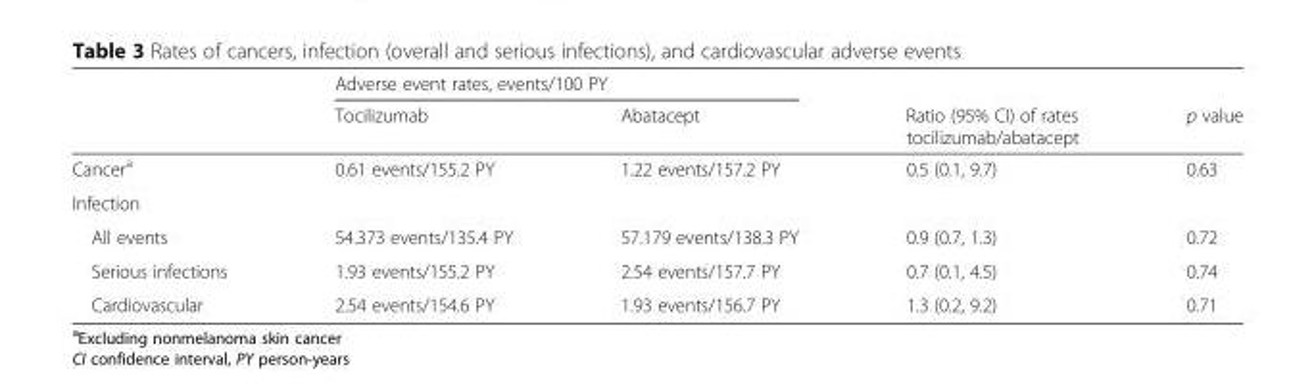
<table><thead><tr><td rowspan="2"></td><td colspan="2">Adverse event rates, events/100 PY</td><td rowspan="2">Ratio (95% CI) of rates tocilizumab/abatacept</td><td rowspan="2">p value</td></tr><tr><td>Tocilizumab</td><td>Abatacept</td></tr></thead><tbody><tr><td>Cancer<sup>a</sup></td><td>0.61 events/155.2 PY</td><td>1.22 events/157.2 PY</td><td>0.5 (0.1, 9.7)</td><td>0.63</td></tr><tr><td colspan="5">Infection</td></tr><tr><td>All events</td><td>54.373 events/135.4 PY</td><td>57.179 events/138.3 PY</td><td>0.9 (0.7, 1.3)</td><td>0.72</td></tr><tr><td>Serious infections</td><td>1.93 events/155.2 PY</td><td>2.54 events/157.7 PY</td><td>0.7 (0.1, 4.5)</td><td>0.74</td></tr><tr><td>Cardiovascular</td><td>2.54 events/154.6 PY</td><td>1.93 events/156.7 PY</td><td>1.3 (0.2, 9.2)</td><td>0.71</td></tr></tbody></table>